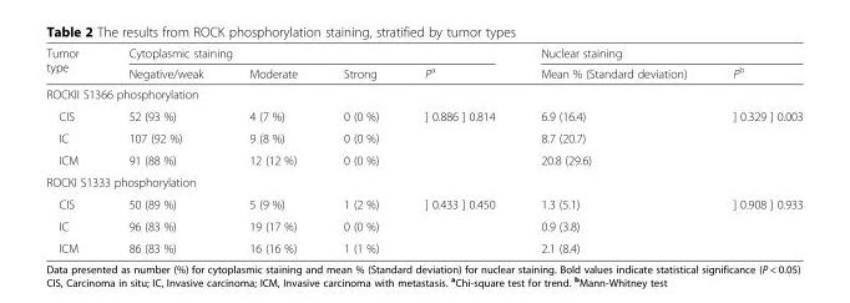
<table><thead><tr><td rowspan="2">Tumor type</td><td colspan="4">Cytoplasmic staining</td><td colspan="2">Nuclear staining</td></tr><tr><td>Negative/weak</td><td>Moderate</td><td>Strong</td><td>P<sup>a</sup></td><td>Mean % (Standard deviation)</td><td>P<sup>b</sup></td></tr></thead><tbody><tr><td colspan="7">ROCKII S1366 phosphorylation</td></tr><tr><td>CIS</td><td>52 (93 %)</td><td>4 (7 %)</td><td>0 (0 %)</td><td rowspan="3">] 0.886 ] 0.814</td><td>6.9 (16.4)</td><td rowspan="3">] 0.329 ] 0.003</td></tr><tr><td>IC</td><td>107 (92 %)</td><td>9 (8 %)</td><td>0 (0 %)</td><td>8.7 (20.7)</td></tr><tr><td>ICM</td><td>91 (88 %)</td><td>12 (12 %)</td><td>0 (0 %)</td><td>20.8 (29.6)</td></tr><tr><td colspan="7">ROCKI S1333 phosphorylation</td></tr><tr><td>CIS</td><td>50 (89 %)</td><td>5 (9 %)</td><td>1 (2 %)</td><td rowspan="3">] 0.433 ] 0.450</td><td>1.3 (5.1)</td><td rowspan="3">] 0.908 ] 0.933</td></tr><tr><td>IC</td><td>96 (83 %)</td><td>19 (17 %)</td><td>0 (0 %)</td><td>0.9 (3.8)</td></tr><tr><td>ICM</td><td>86 (83 %)</td><td>16 (16 %)</td><td>1 (1 %)</td><td>2.1 (8.4)</td></tr></tbody></table>